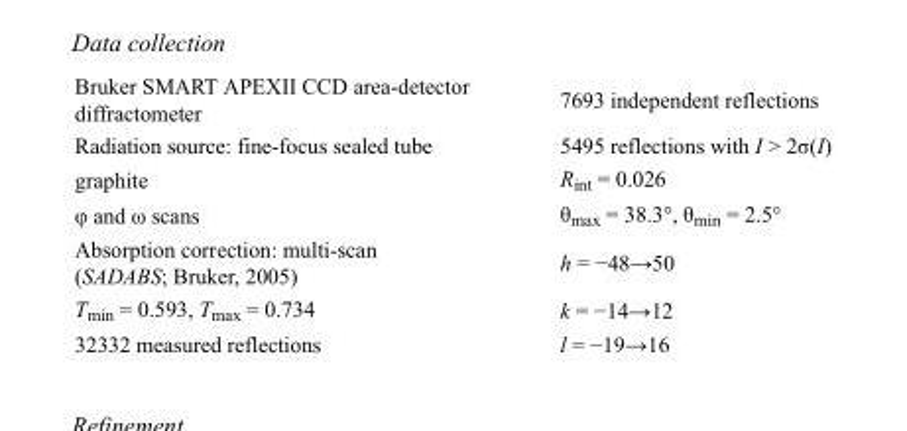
<table><tbody><tr><td>Bruker SMART APEXII CCD area-detector diffractometer</td><td>7693 independent reflections</td></tr><tr><td>Radiation source: fine-focus sealed tube</td><td>5495 reflections with I &gt; 2σ(I)</td></tr><tr><td>graphite</td><td>R<sub>int</sub> = 0.026</td></tr><tr><td>φ and ω scans</td><td>θ<sub>max</sub> = 38.3°, θ<sub>min</sub> = 2.5°</td></tr><tr><td>Absorption correction: multi-scan (SADABS; Bruker, 2005)</td><td>h = −48→50</td></tr><tr><td>T<sub>min</sub> = 0.593, T<sub>max</sub> = 0.734</td><td>k = −14→12</td></tr><tr><td>32332 measured reflections</td><td>l = −19→16</td></tr></tbody></table>